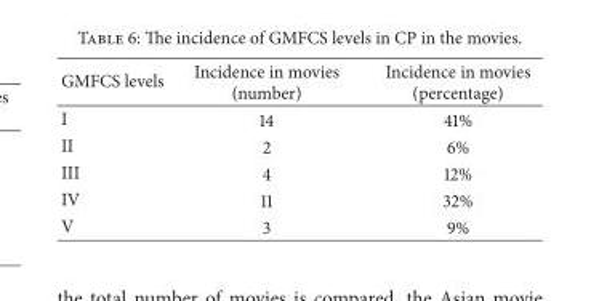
<table><thead><tr><td>GMFCS levels</td><td>Incidence in movies (number)</td><td>Incidence in movies (percentage)</td></tr></thead><tbody><tr><td>I</td><td>14</td><td>41%</td></tr><tr><td>II</td><td>2</td><td>6%</td></tr><tr><td>III</td><td>4</td><td>12%</td></tr><tr><td>IV</td><td>11</td><td>32%</td></tr><tr><td>V</td><td>3</td><td>9%</td></tr></tbody></table>